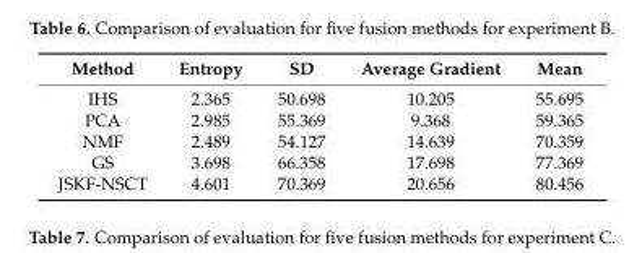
<table><thead><tr><td>Method</td><td>Entropy</td><td>SD</td><td>Average Gradient</td><td>Mean</td></tr></thead><tbody><tr><td>IHS</td><td>2.365</td><td>50.698</td><td>10.205</td><td>55.695</td></tr><tr><td>PCA</td><td>2.985</td><td>55.369</td><td>9.368</td><td>59.365</td></tr><tr><td>NMF</td><td>2.489</td><td>54.127</td><td>14.639</td><td>70.359</td></tr><tr><td>GS</td><td>3.698</td><td>66.358</td><td>17.698</td><td>77.369</td></tr><tr><td>JSKF-NSCT</td><td>4.601</td><td>70.369</td><td>20.656</td><td>80.456</td></tr></tbody></table>